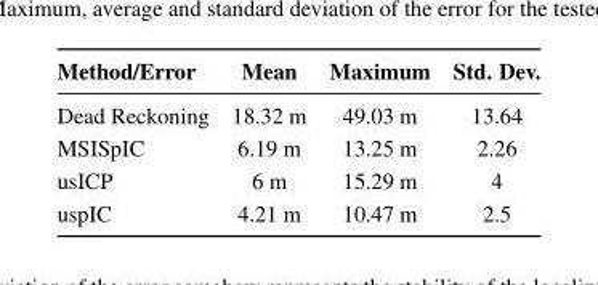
<table><thead><tr><td>Method/Error</td><td>Mean</td><td>Maximum</td><td>Std. Dev.</td></tr></thead><tbody><tr><td>Dead Reckoning</td><td>18.32 m</td><td>49.03 m</td><td>13.64</td></tr><tr><td>MSISpIC</td><td>6.19 m</td><td>13.25 m</td><td>2.26</td></tr><tr><td>usICP</td><td>6 m</td><td>15.29 m</td><td>4</td></tr><tr><td>uspIC</td><td>4.21 m</td><td>10.47 m</td><td>2.5</td></tr></tbody></table>